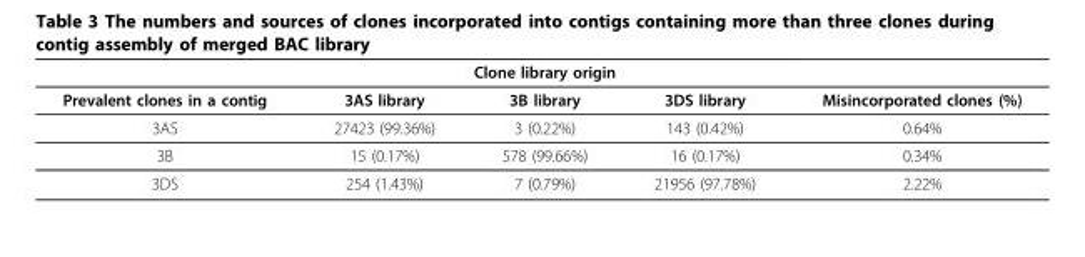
<table><thead><tr><td rowspan="2">Prevalent clones in a contig</td><td colspan="3">Clone library origin</td><td rowspan="2">Misincorporated clones (%)</td></tr><tr><td>3AS library</td><td>3B library</td><td>3DS library</td></tr></thead><tbody><tr><td>3AS</td><td>27423 (99.36%)</td><td>3 (0.22%)</td><td>143 (0.42%)</td><td>0.64%</td></tr><tr><td>3B</td><td>15 (0.17%)</td><td>578 (99.66%)</td><td>16 (0.17%)</td><td>0.34%</td></tr><tr><td>3DS</td><td>254 (1.43%)</td><td>7 (0.79%)</td><td>21956 (97.78%)</td><td>2.22%</td></tr></tbody></table>